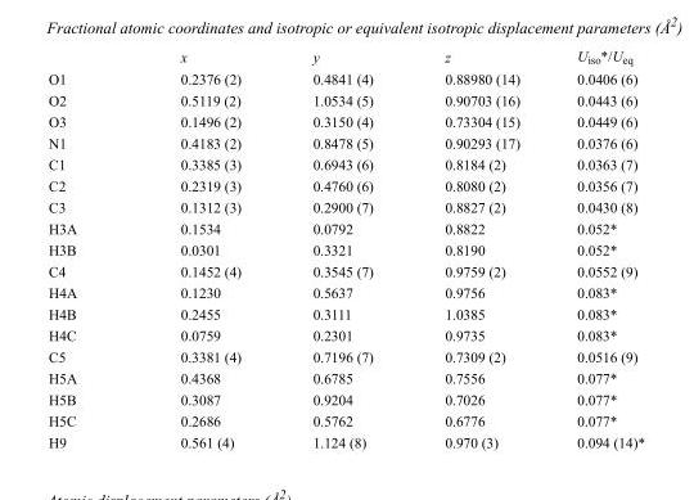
<table><thead><tr><td></td><td>x</td><td>y</td><td>z</td><td>U<sub>iso</sub>*/U<sub>eq</sub></td></tr></thead><tbody><tr><td>O1</td><td>0.2376 (2)</td><td>0.4841 (4)</td><td>0.88980 (14)</td><td>0.0406 (6)</td></tr><tr><td>O2</td><td>0.5119 (2)</td><td>1.0534 (5)</td><td>0.90703 (16)</td><td>0.0443 (6)</td></tr><tr><td>O3</td><td>0.1496 (2)</td><td>0.3150 (4)</td><td>0.73304 (15)</td><td>0.0449 (6)</td></tr><tr><td>N1</td><td>0.4183 (2)</td><td>0.8478 (5)</td><td>0.90293 (17)</td><td>0.0376 (6)</td></tr><tr><td>C1</td><td>0.3385 (3)</td><td>0.6943 (6)</td><td>0.8184 (2)</td><td>0.0363 (7)</td></tr><tr><td>C2</td><td>0.2319 (3)</td><td>0.4760 (6)</td><td>0.8080 (2)</td><td>0.0356 (7)</td></tr><tr><td>C3</td><td>0.1312 (3)</td><td>0.2900 (7)</td><td>0.8827 (2)</td><td>0.0430 (8)</td></tr><tr><td>H3A</td><td>0.1534</td><td>0.0792</td><td>0.8822</td><td>0.052*</td></tr><tr><td>H3B</td><td>0.0301</td><td>0.3321</td><td>0.8190</td><td>0.052*</td></tr><tr><td>C4</td><td>0.1452 (4)</td><td>0.3545 (7)</td><td>0.9759 (2)</td><td>0.0552 (9)</td></tr><tr><td>H4A</td><td>0.1230</td><td>0.5637</td><td>0.9756</td><td>0.083*</td></tr><tr><td>H4B</td><td>0.2455</td><td>0.3111</td><td>1.0385</td><td>0.083*</td></tr><tr><td>H4C</td><td>0.0759</td><td>0.2301</td><td>0.9735</td><td>0.083*</td></tr><tr><td>C5</td><td>0.3381 (4)</td><td>0.7196 (7)</td><td>0.7309 (2)</td><td>0.0516 (9)</td></tr><tr><td>H5A</td><td>0.4368</td><td>0.6785</td><td>0.7556</td><td>0.077*</td></tr><tr><td>H5B</td><td>0.3087</td><td>0.9204</td><td>0.7026</td><td>0.077*</td></tr><tr><td>H5C</td><td>0.2686</td><td>0.5762</td><td>0.6776</td><td>0.077*</td></tr><tr><td>H9</td><td>0.561 (4)</td><td>1.124 (8)</td><td>0.970 (3)</td><td>0.094 (14)*</td></tr></tbody></table>